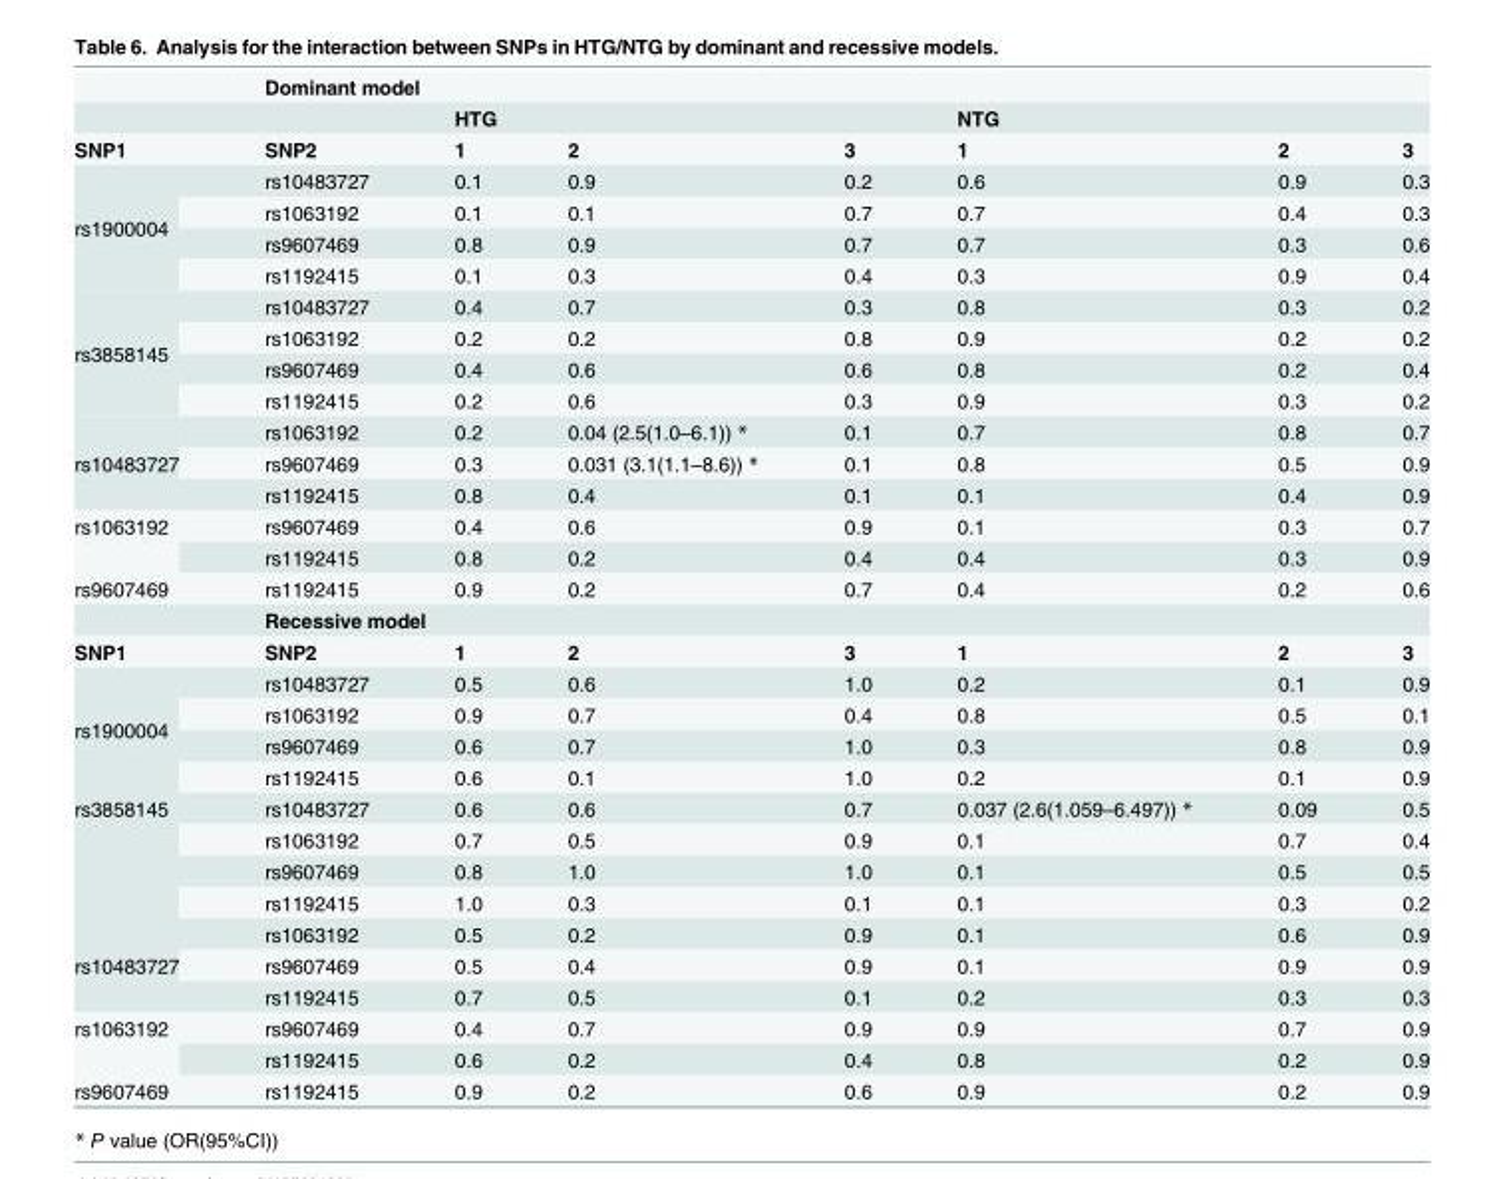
<table><thead><tr><td rowspan="3">SNP1</td><td colspan="7">Dominant model</td></tr><tr><td rowspan="2">SNP2</td><td colspan="3">HTG</td><td colspan="3">NTG</td></tr><tr><td>1</td><td>2</td><td>3</td><td>1</td><td>2</td><td>3</td></tr></thead><tbody><tr><td rowspan="4">rs1900004</td><td>rs10483727</td><td>0.1</td><td>0.9</td><td>0.2</td><td>0.6</td><td>0.9</td><td>0.3</td></tr><tr><td>rs1063192</td><td>0.1</td><td>0.1</td><td>0.7</td><td>0.7</td><td>0.4</td><td>0.3</td></tr><tr><td>rs9607469</td><td>0.8</td><td>0.9</td><td>0.7</td><td>0.7</td><td>0.3</td><td>0.6</td></tr><tr><td>rs1192415</td><td>0.1</td><td>0.3</td><td>0.4</td><td>0.3</td><td>0.9</td><td>0.4</td></tr><tr><td rowspan="4">rs3858145</td><td>rs10483727</td><td>0.4</td><td>0.7</td><td>0.3</td><td>0.8</td><td>0.3</td><td>0.2</td></tr><tr><td>rs1063192</td><td>0.2</td><td>0.2</td><td>0.8</td><td>0.9</td><td>0.2</td><td>0.2</td></tr><tr><td>rs9607469</td><td>0.4</td><td>0.6</td><td>0.6</td><td>0.8</td><td>0.2</td><td>0.4</td></tr><tr><td>rs1192415</td><td>0.2</td><td>0.6</td><td>0.3</td><td>0.9</td><td>0.3</td><td>0.2</td></tr><tr><td rowspan="3">rs10483727</td><td>rs1063192</td><td>0.2</td><td>0.04 (2.5(1.0–6.1)) *</td><td>0.1</td><td>0.7</td><td>0.8</td><td>0.7</td></tr><tr><td>rs9607469</td><td>0.3</td><td>0.031 (3.1(1.1–8.6)) *</td><td>0.1</td><td>0.8</td><td>0.5</td><td>0.9</td></tr><tr><td>rs1192415</td><td>0.8</td><td>0.4</td><td>0.1</td><td>0.1</td><td>0.4</td><td>0.9</td></tr><tr><td rowspan="2">rs1063192</td><td>rs9607469</td><td>0.4</td><td>0.6</td><td>0.9</td><td>0.1</td><td>0.3</td><td>0.7</td></tr><tr><td>rs1192415</td><td>0.8</td><td>0.2</td><td>0.4</td><td>0.4</td><td>0.3</td><td>0.9</td></tr><tr><td rowspan="2">rs9607469</td><td>rs1192415</td><td>0.9</td><td>0.2</td><td>0.7</td><td>0.4</td><td>0.2</td><td>0.6</td></tr><tr><td colspan="7">Recessive model</td></tr><tr><td>SNP1</td><td>SNP2</td><td>1</td><td>2</td><td>3</td><td>1</td><td>2</td><td>3</td></tr><tr><td rowspan="4">rs1900004</td><td>rs10483727</td><td>0.5</td><td>0.6</td><td>1.0</td><td>0.2</td><td>0.1</td><td>0.9</td></tr><tr><td>rs1063192</td><td>0.9</td><td>0.7</td><td>0.4</td><td>0.8</td><td>0.5</td><td>0.1</td></tr><tr><td>rs9607469</td><td>0.6</td><td>0.7</td><td>1.0</td><td>0.3</td><td>0.8</td><td>0.9</td></tr><tr><td>rs1192415</td><td>0.6</td><td>0.1</td><td>1.0</td><td>0.2</td><td>0.1</td><td>0.9</td></tr><tr><td rowspan="4">rs3858145</td><td>rs10483727</td><td>0.6</td><td>0.6</td><td>0.7</td><td>0.037 (2.6(1.059–6.497)) *</td><td>0.09</td><td>0.5</td></tr><tr><td>rs1063192</td><td>0.7</td><td>0.5</td><td>0.9</td><td>0.1</td><td>0.7</td><td>0.4</td></tr><tr><td>rs9607469</td><td>0.8</td><td>1.0</td><td>1.0</td><td>0.1</td><td>0.5</td><td>0.5</td></tr><tr><td>rs1192415</td><td>1.0</td><td>0.3</td><td>0.1</td><td>0.1</td><td>0.3</td><td>0.2</td></tr><tr><td rowspan="3">rs10483727</td><td>rs1063192</td><td>0.5</td><td>0.2</td><td>0.9</td><td>0.1</td><td>0.6</td><td>0.9</td></tr><tr><td>rs9607469</td><td>0.5</td><td>0.4</td><td>0.9</td><td>0.1</td><td>0.9</td><td>0.9</td></tr><tr><td>rs1192415</td><td>0.7</td><td>0.5</td><td>0.1</td><td>0.2</td><td>0.3</td><td>0.3</td></tr><tr><td rowspan="2">rs1063192</td><td>rs9607469</td><td>0.4</td><td>0.7</td><td>0.9</td><td>0.9</td><td>0.7</td><td>0.9</td></tr><tr><td>rs1192415</td><td>0.6</td><td>0.2</td><td>0.4</td><td>0.8</td><td>0.2</td><td>0.9</td></tr><tr><td>rs9607469</td><td>rs1192415</td><td>0.9</td><td>0.2</td><td>0.6</td><td>0.9</td><td>0.2</td><td>0.9</td></tr></tbody></table>